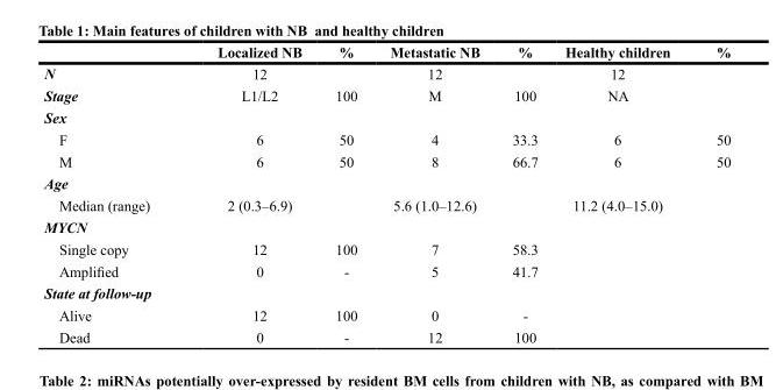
<table><thead><tr><td></td><td>Localized NB</td><td>%</td><td>Metastatic NB</td><td>%</td><td>Healthy children</td><td>%</td></tr></thead><tbody><tr><td>N</td><td>12</td><td></td><td>12</td><td></td><td>12</td><td></td></tr><tr><td>Stage</td><td>L1/L2</td><td>100</td><td>M</td><td>100</td><td>NA</td><td></td></tr><tr><td colspan="7">Sex</td></tr><tr><td>F</td><td>6</td><td>50</td><td>4</td><td>33.3</td><td>6</td><td>50</td></tr><tr><td>M</td><td>6</td><td>50</td><td>8</td><td>66.7</td><td>6</td><td>50</td></tr><tr><td colspan="7">Age</td></tr><tr><td>Median (range)</td><td>2 (0.3–6.9)</td><td></td><td>5.6 (1.0–12.6)</td><td></td><td>11.2 (4.0–15.0)</td><td></td></tr><tr><td colspan="7">MYCN</td></tr><tr><td>Single copy</td><td>12</td><td>100</td><td>7</td><td>58.3</td><td></td><td></td></tr><tr><td>Amplified</td><td>0</td><td>-</td><td>5</td><td>41.7</td><td></td><td></td></tr><tr><td colspan="7">State at follow-up</td></tr><tr><td>Alive</td><td>12</td><td>100</td><td>0</td><td>-</td><td></td><td></td></tr><tr><td>Dead</td><td>0</td><td>-</td><td>12</td><td>100</td><td></td><td></td></tr></tbody></table>